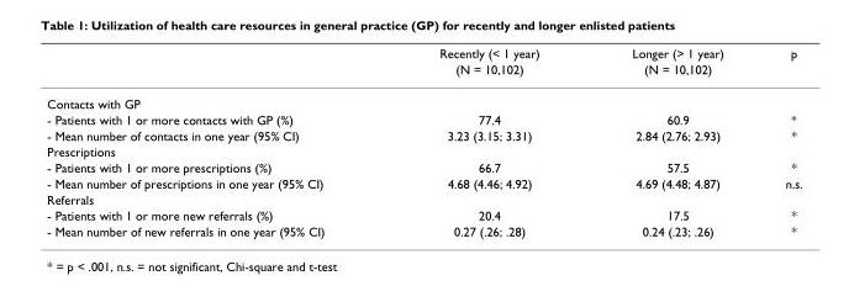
<table><thead><tr><td rowspan="2"></td><td rowspan="2">Recently (&lt; 1 year) (N = 10,102)</td><td rowspan="2">Longer (&gt; 1 year) (N = 10,102)</td><td rowspan="2">p</td></tr><tr></tr></thead><tbody><tr><td colspan="4">Contacts with GP</td></tr><tr><td>- Patients with 1 or more contacts with GP (%)</td><td>77.4</td><td>60.9</td><td>*</td></tr><tr><td>- Mean number of contacts in one year (95% CI)</td><td>3.23 (3.15; 3.31)</td><td>2.84 (2.76; 2.93)</td><td>*</td></tr><tr><td colspan="4">Prescriptions</td></tr><tr><td>- Patients with 1 or more prescriptions (%)</td><td>66.7</td><td>57.5</td><td>*</td></tr><tr><td>- Mean number of prescriptions in one year (95% CI)</td><td>4.68 (4.46; 4.92)</td><td>4.69 (4.48; 4.87)</td><td>n.s.</td></tr><tr><td colspan="4">Referrals</td></tr><tr><td>- Patients with 1 or more new referrals (%)</td><td>20.4</td><td>17.5</td><td>*</td></tr><tr><td>- Mean number of new referrals in one year (95% CI)</td><td>0.27 (.26; .28)</td><td>0.24 (.23; .26)</td><td>*</td></tr></tbody></table>